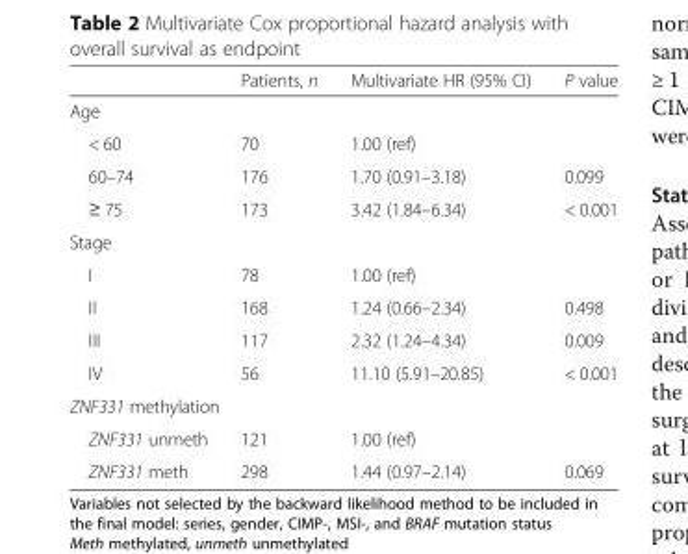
<table><thead><tr><td></td><td>Patients, n</td><td>Multivariate HR (95% CI)</td><td>P value</td></tr></thead><tbody><tr><td colspan="4">Age</td></tr><tr><td>&lt; 60</td><td>70</td><td>1.00 (ref)</td><td></td></tr><tr><td>60–74</td><td>176</td><td>1.70 (0.91–3.18)</td><td>0.099</td></tr><tr><td>≥ 75</td><td>173</td><td>3.42 (1.84–6.34)</td><td>&lt; 0.001</td></tr><tr><td colspan="4">Stage</td></tr><tr><td>I</td><td>78</td><td>1.00 (ref)</td><td></td></tr><tr><td>II</td><td>168</td><td>1.24 (0.66–2.34)</td><td>0.498</td></tr><tr><td>III</td><td>117</td><td>2.32 (1.24–4.34)</td><td>0.009</td></tr><tr><td>IV</td><td>56</td><td>11.10 (5.91–20.85)</td><td>&lt; 0.001</td></tr><tr><td colspan="4">ZNF331 methylation</td></tr><tr><td>ZNF331 unmeth</td><td>121</td><td>1.00 (ref)</td><td></td></tr><tr><td>ZNF331 meth</td><td>298</td><td>1.44 (0.97–2.14)</td><td>0.069</td></tr></tbody></table>